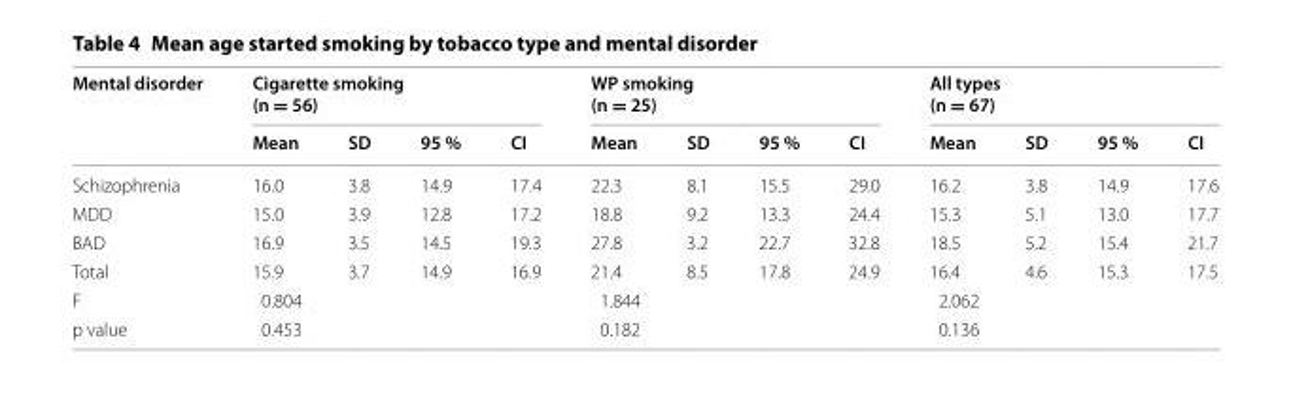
<table><thead><tr><td rowspan="2">Mental disorder</td><td colspan="4">Cigarette smoking (n = 56)</td><td colspan="4">WP smoking (n = 25)</td><td colspan="4">All types (n = 67)</td></tr><tr><td>Mean</td><td>SD</td><td>95 %</td><td>CI</td><td>Mean</td><td>SD</td><td>95 %</td><td>CI</td><td>Mean</td><td>SD</td><td>95 %</td><td>CI</td></tr></thead><tbody><tr><td>Schizophrenia</td><td>16.0</td><td>3.8</td><td>14.9</td><td>17.4</td><td>22.3</td><td>8.1</td><td>15.5</td><td>29.0</td><td>16.2</td><td>3.8</td><td>14.9</td><td>17.6</td></tr><tr><td>MDD</td><td>15.0</td><td>3.9</td><td>12.8</td><td>17.2</td><td>18.8</td><td>9.2</td><td>13.3</td><td>24.4</td><td>15.3</td><td>5.1</td><td>13.0</td><td>17.7</td></tr><tr><td>BAD</td><td>16.9</td><td>3.5</td><td>14.5</td><td>19.3</td><td>27.8</td><td>3.2</td><td>22.7</td><td>32.8</td><td>18.5</td><td>5.2</td><td>15.4</td><td>21.7</td></tr><tr><td>Total</td><td>15.9</td><td>3.7</td><td>14.9</td><td>16.9</td><td>21.4</td><td>8.5</td><td>17.8</td><td>24.9</td><td>16.4</td><td>4.6</td><td>15.3</td><td>17.5</td></tr><tr><td>F</td><td colspan="4">0.804</td><td colspan="4">1.844</td><td colspan="4">2.062</td></tr><tr><td>p value</td><td colspan="4">0.453</td><td colspan="4">0.182</td><td colspan="4">0.136</td></tr></tbody></table>